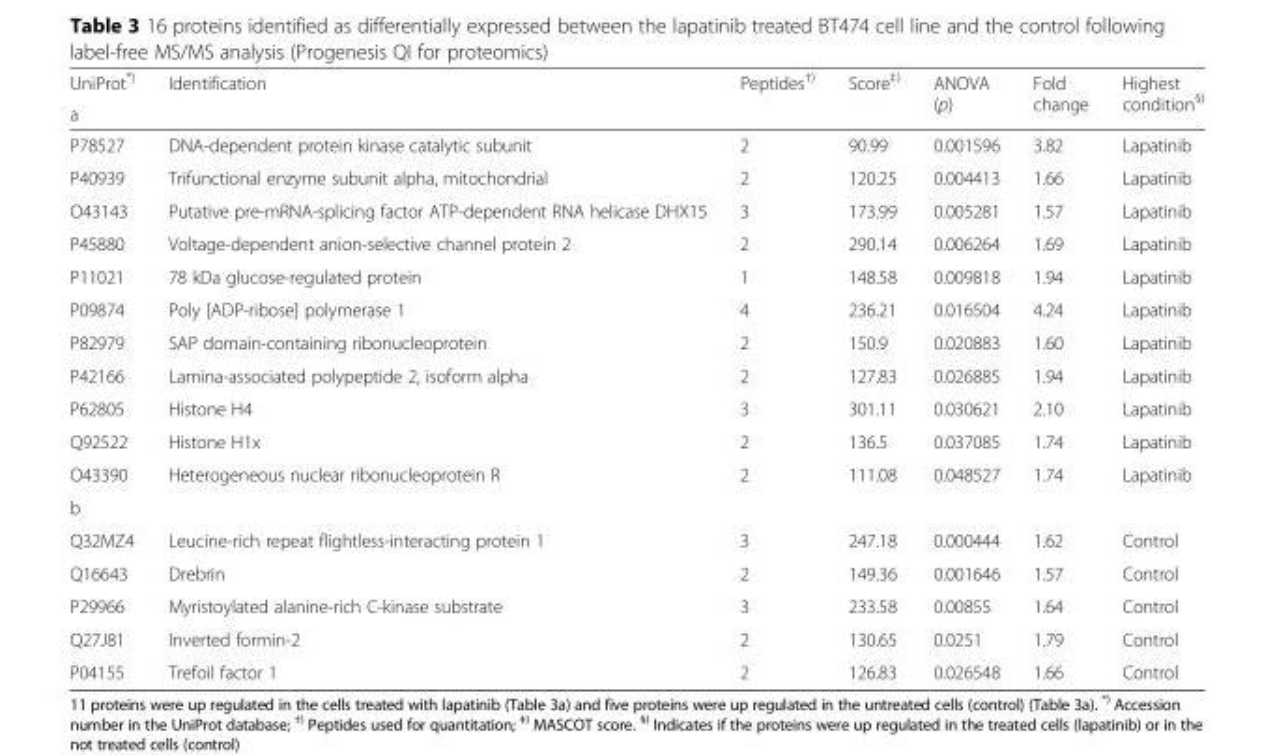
<table><thead><tr><td rowspan="2">UniProt<sup>*)</sup> a</td><td rowspan="2">Identification</td><td rowspan="2">Peptides<sup>†)</sup></td><td rowspan="2">Score<sup>‡)</sup></td><td rowspan="2">ANOVA (p)</td><td rowspan="2">Fold change</td><td rowspan="2">Highest condition<sup>§)</sup></td></tr><tr></tr></thead><tbody><tr><td>P78527</td><td>DNA-dependent protein kinase catalytic subunit</td><td>2</td><td>90.99</td><td>0.001596</td><td>3.82</td><td>Lapatinib</td></tr><tr><td>P40939</td><td>Trifunctional enzyme subunit alpha, mitochondrial</td><td>2</td><td>120.25</td><td>0.004413</td><td>1.66</td><td>Lapatinib</td></tr><tr><td>O43143</td><td>Putative pre-mRNA-splicing factor ATP-dependent RNA helicase DHX15</td><td>3</td><td>173.99</td><td>0.005281</td><td>1.57</td><td>Lapatinib</td></tr><tr><td>P45880</td><td>Voltage-dependent anion-selective channel protein 2</td><td>2</td><td>290.14</td><td>0.006264</td><td>1.69</td><td>Lapatinib</td></tr><tr><td>P11021</td><td>78 kDa glucose-regulated protein</td><td>1</td><td>148.58</td><td>0.009818</td><td>1.94</td><td>Lapatinib</td></tr><tr><td>P09874</td><td>Poly [ADP-ribose] polymerase 1</td><td>4</td><td>236.21</td><td>0.016504</td><td>4.24</td><td>Lapatinib</td></tr><tr><td>P82979</td><td>SAP domain-containing ribonucleoprotein</td><td>2</td><td>150.9</td><td>0.020883</td><td>1.60</td><td>Lapatinib</td></tr><tr><td>P42166</td><td>Lamina-associated polypeptide 2, isoform alpha</td><td>2</td><td>127.83</td><td>0.026885</td><td>1.94</td><td>Lapatinib</td></tr><tr><td>P62805</td><td>Histone H4</td><td>3</td><td>301.11</td><td>0.030621</td><td>2.10</td><td>Lapatinib</td></tr><tr><td>Q92522</td><td>Histone H1x</td><td>2</td><td>136.5</td><td>0.037085</td><td>1.74</td><td>Lapatinib</td></tr><tr><td>O43390</td><td>Heterogeneous nuclear ribonucleoprotein R</td><td>2</td><td>111.08</td><td>0.048527</td><td>1.74</td><td>Lapatinib</td></tr><tr><td colspan="7">b</td></tr><tr><td>Q32MZ4</td><td>Leucine-rich repeat flightless-interacting protein 1</td><td>3</td><td>247.18</td><td>0.000444</td><td>1.62</td><td>Control</td></tr><tr><td>Q16643</td><td>Drebrin</td><td>2</td><td>149.36</td><td>0.001646</td><td>1.57</td><td>Control</td></tr><tr><td>P29966</td><td>Myristoylated alanine-rich C-kinase substrate</td><td>3</td><td>233.58</td><td>0.00855</td><td>1.64</td><td>Control</td></tr><tr><td>Q27J81</td><td>Inverted formin-2</td><td>2</td><td>130.65</td><td>0.0251</td><td>1.79</td><td>Control</td></tr><tr><td>P04155</td><td>Trefoil factor 1</td><td>2</td><td>126.83</td><td>0.026548</td><td>1.66</td><td>Control</td></tr></tbody></table>